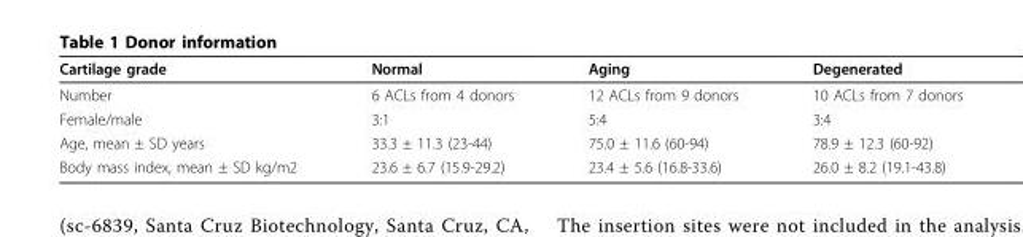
<table><thead><tr><td>Cartilage grade</td><td>Normal</td><td>Aging</td><td>Degenerated</td></tr></thead><tbody><tr><td>Number</td><td>6 ACLs from 4 donors</td><td>12 ACLs from 9 donors</td><td>10 ACLs from 7 donors</td></tr><tr><td>Female/male</td><td>3:1</td><td>5:4</td><td>3:4</td></tr><tr><td>Age, mean ± SD years</td><td>33.3 ± 11.3 (23-44)</td><td>75.0 ± 11.6 (60-94)</td><td>78.9 ± 12.3 (60-92)</td></tr><tr><td>Body mass index, mean ± SD kg/m2</td><td>23.6 ± 6.7 (15.9-29.2)</td><td>23.4 ± 5.6 (16.8-33.6)</td><td>26.0 ± 8.2 (19.1-43.8)</td></tr></tbody></table>